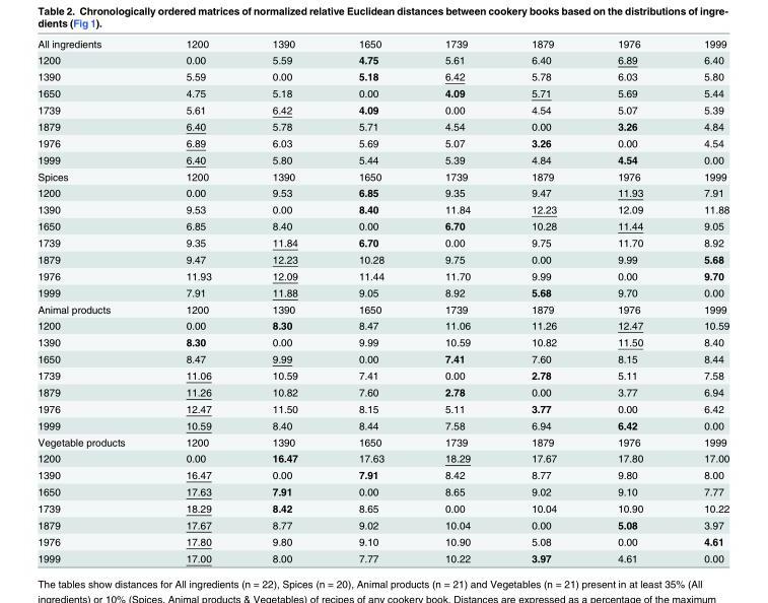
<table><tbody><tr><td>All ingredients</td><td>1200</td><td>1390</td><td>1650</td><td>1739</td><td>1879</td><td>1976</td><td>1999</td></tr><tr><td>1200</td><td>0.00</td><td>5.59</td><td>4.75</td><td>5.61</td><td>6.40</td><td>6.89</td><td>6.40</td></tr><tr><td>1390</td><td>5.59</td><td>0.00</td><td>5.18</td><td>6.42</td><td>5.78</td><td>6.03</td><td>5.80</td></tr><tr><td>1650</td><td>4.75</td><td>5.18</td><td>0.00</td><td>4.09</td><td>5.71</td><td>5.69</td><td>5.44</td></tr><tr><td>1739</td><td>5.61</td><td>6.42</td><td>4.09</td><td>0.00</td><td>4.54</td><td>5.07</td><td>5.39</td></tr><tr><td>1879</td><td>6.40</td><td>5.78</td><td>5.71</td><td>4.54</td><td>0.00</td><td>3.26</td><td>4.84</td></tr><tr><td>1976</td><td>6.89</td><td>6.03</td><td>5.69</td><td>5.07</td><td>3.26</td><td>0.00</td><td>4.54</td></tr><tr><td>1999</td><td>6.40</td><td>5.80</td><td>5.44</td><td>5.39</td><td>4.84</td><td>4.54</td><td>0.00</td></tr><tr><td>Spices</td><td>1200</td><td>1390</td><td>1650</td><td>1739</td><td>1879</td><td>1976</td><td>1999</td></tr><tr><td>1200</td><td>0.00</td><td>9.53</td><td>6.85</td><td>9.35</td><td>9.47</td><td>11.93</td><td>7.91</td></tr><tr><td>1390</td><td>9.53</td><td>0.00</td><td>8.40</td><td>11.84</td><td>12.23</td><td>12.09</td><td>11.88</td></tr><tr><td>1650</td><td>6.85</td><td>8.40</td><td>0.00</td><td>6.70</td><td>10.28</td><td>11.44</td><td>9.05</td></tr><tr><td>1739</td><td>9.35</td><td>11.84</td><td>6.70</td><td>0.00</td><td>9.75</td><td>11.70</td><td>8.92</td></tr><tr><td>1879</td><td>9.47</td><td>12.23</td><td>10.28</td><td>9.75</td><td>0.00</td><td>9.99</td><td>5.68</td></tr><tr><td>1976</td><td>11.93</td><td>12.09</td><td>11.44</td><td>11.70</td><td>9.99</td><td>0.00</td><td>9.70</td></tr><tr><td>1999</td><td>7.91</td><td>11.88</td><td>9.05</td><td>8.92</td><td>5.68</td><td>9.70</td><td>0.00</td></tr><tr><td>Animal products</td><td>1200</td><td>1390</td><td>1650</td><td>1739</td><td>1879</td><td>1976</td><td>1999</td></tr><tr><td>1200</td><td>0.00</td><td>8.30</td><td>8.47</td><td>11.06</td><td>11.26</td><td>12.47</td><td>10.59</td></tr><tr><td>1390</td><td>8.30</td><td>0.00</td><td>9.99</td><td>10.59</td><td>10.82</td><td>11.50</td><td>8.40</td></tr><tr><td>1650</td><td>8.47</td><td>9.99</td><td>0.00</td><td>7.41</td><td>7.60</td><td>8.15</td><td>8.44</td></tr><tr><td>1739</td><td>11.06</td><td>10.59</td><td>7.41</td><td>0.00</td><td>2.78</td><td>5.11</td><td>7.58</td></tr><tr><td>1879</td><td>11.26</td><td>10.82</td><td>7.60</td><td>2.78</td><td>0.00</td><td>3.77</td><td>6.94</td></tr><tr><td>1976</td><td>12.47</td><td>11.50</td><td>8.15</td><td>5.11</td><td>3.77</td><td>0.00</td><td>6.42</td></tr><tr><td>1999</td><td>10.59</td><td>8.40</td><td>8.44</td><td>7.58</td><td>6.94</td><td>6.42</td><td>0.00</td></tr><tr><td>Vegetable products</td><td>1200</td><td>1390</td><td>1650</td><td>1739</td><td>1879</td><td>1976</td><td>1999</td></tr><tr><td>1200</td><td>0.00</td><td>16.47</td><td>17.63</td><td>18.29</td><td>17.67</td><td>17.80</td><td>17.00</td></tr><tr><td>1390</td><td>16.47</td><td>0.00</td><td>7.91</td><td>8.42</td><td>8.77</td><td>9.80</td><td>8.00</td></tr><tr><td>1650</td><td>17.63</td><td>7.91</td><td>0.00</td><td>8.65</td><td>9.02</td><td>9.10</td><td>7.77</td></tr><tr><td>1739</td><td>18.29</td><td>8.42</td><td>8.65</td><td>0.00</td><td>10.04</td><td>10.90</td><td>10.22</td></tr><tr><td>1879</td><td>17.67</td><td>8.77</td><td>9.02</td><td>10.04</td><td>0.00</td><td>5.08</td><td>3.97</td></tr><tr><td>1976</td><td>17.80</td><td>9.80</td><td>9.10</td><td>10.90</td><td>5.08</td><td>0.00</td><td>4.61</td></tr><tr><td>1999</td><td>17.00</td><td>8.00</td><td>7.77</td><td>10.22</td><td>3.97</td><td>4.61</td><td>0.00</td></tr></tbody></table>